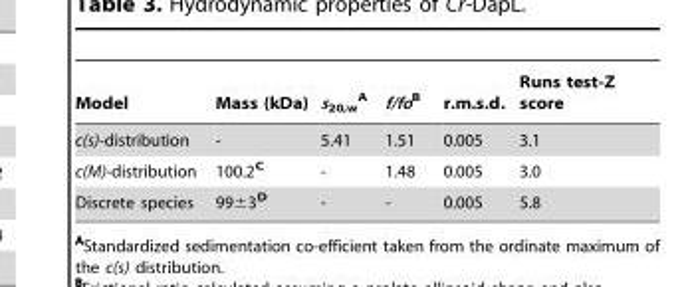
<table><thead><tr><td>Model</td><td>Mass (kDa)</td><td>s<sub>20,w</sub> A</td><td>f/foB</td><td>r.m.s.d.</td><td>Runs test-Z score</td></tr></thead><tbody><tr><td>c(s)-distribution</td><td>-</td><td>5.41</td><td>1.51</td><td>0.005</td><td>3.1</td></tr><tr><td>c(M)-distribution</td><td>100.2<sup>C</sup></td><td>-</td><td>1.48</td><td>0.005</td><td>3.0</td></tr><tr><td>Discrete species</td><td>99±3<sup>D</sup></td><td>-</td><td>-</td><td>0.005</td><td>5.8</td></tr></tbody></table>